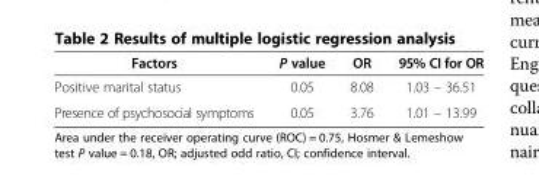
<table><thead><tr><td>Factors</td><td>P value</td><td>OR</td><td>95% CI for OR</td></tr></thead><tbody><tr><td>Positive marital status</td><td>0.05</td><td>8.08</td><td>1.03 – 36.51</td></tr><tr><td>Presence of psychosocial symptoms</td><td>0.05</td><td>3.76</td><td>1.01 – 13.99</td></tr></tbody></table>